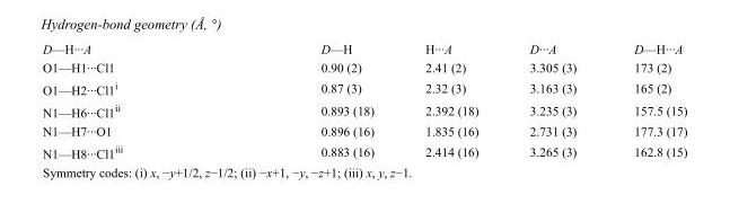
<table><tbody><tr><td>D—H···A</td><td>D—H</td><td>H···A</td><td>D···A</td><td>D—H···A</td></tr><tr><td>O1—H1···Cl1</td><td>0.90 (2)</td><td>2.41 (2)</td><td>3.305 (3)</td><td>173 (2)</td></tr><tr><td>O1—H2···Cl1<sup>i</sup></td><td>0.87 (3)</td><td>2.32 (3)</td><td>3.163 (3)</td><td>165 (2)</td></tr><tr><td>N1—H6···Cl1<sup>ii</sup></td><td>0.893 (18)</td><td>2.392 (18)</td><td>3.235 (3)</td><td>157.5 (15)</td></tr><tr><td>N1—H7···O1</td><td>0.896 (16)</td><td>1.835 (16)</td><td>2.731 (3)</td><td>177.3 (17)</td></tr><tr><td>N1—H8···Cl1<sup>iii</sup></td><td>0.883 (16)</td><td>2.414 (16)</td><td>3.265 (3)</td><td>162.8 (15)</td></tr></tbody></table>